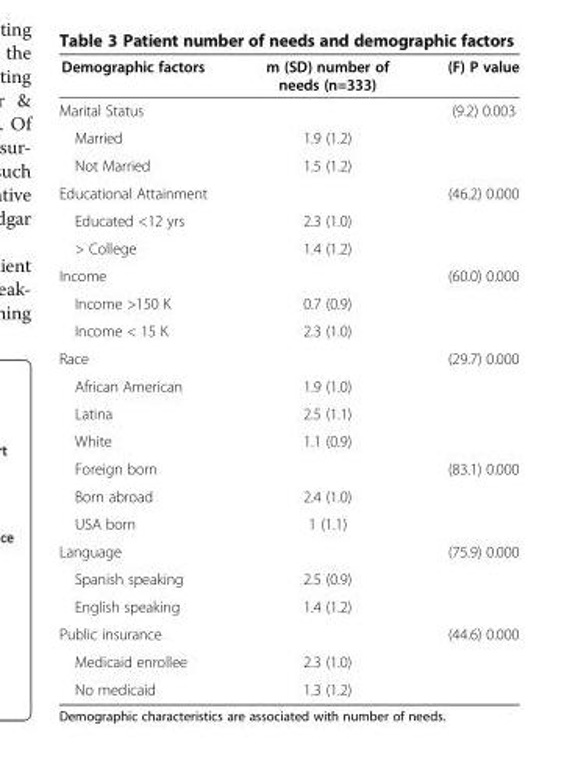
<table><thead><tr><td>Demographic factors</td><td>m (SD) number of needs (n=333)</td><td>(F) P value</td></tr></thead><tbody><tr><td>Marital Status</td><td></td><td>(9.2) 0.003</td></tr><tr><td>Married</td><td>1.9 (1.2)</td><td></td></tr><tr><td>Not Married</td><td>1.5 (1.2)</td><td></td></tr><tr><td>Educational Attainment</td><td></td><td>(46.2) 0.000</td></tr><tr><td>Educated &lt;12 yrs</td><td>2.3 (1.0)</td><td></td></tr><tr><td>&gt; College</td><td>1.4 (1.2)</td><td></td></tr><tr><td>Income</td><td></td><td>(60.0) 0.000</td></tr><tr><td>Income &gt;150 K</td><td>0.7 (0.9)</td><td></td></tr><tr><td>Income &lt; 15 K</td><td>2.3 (1.0)</td><td></td></tr><tr><td>Race</td><td></td><td>(29.7) 0.000</td></tr><tr><td>African American</td><td>1.9 (1.0)</td><td></td></tr><tr><td>Latina</td><td>2.5 (1.1)</td><td></td></tr><tr><td>White</td><td>1.1 (0.9)</td><td></td></tr><tr><td>Foreign born</td><td></td><td>(83.1) 0.000</td></tr><tr><td>Born abroad</td><td>2.4 (1.0)</td><td></td></tr><tr><td>USA born</td><td>1 (1.1)</td><td></td></tr><tr><td>Language</td><td></td><td>(75.9) 0.000</td></tr><tr><td>Spanish speaking</td><td>2.5 (0.9)</td><td></td></tr><tr><td>English speaking</td><td>1.4 (1.2)</td><td></td></tr><tr><td>Public insurance</td><td></td><td>(44.6) 0.000</td></tr><tr><td>Medicaid enrollee</td><td>2.3 (1.0)</td><td></td></tr><tr><td>No medicaid</td><td>1.3 (1.2)</td><td></td></tr></tbody></table>